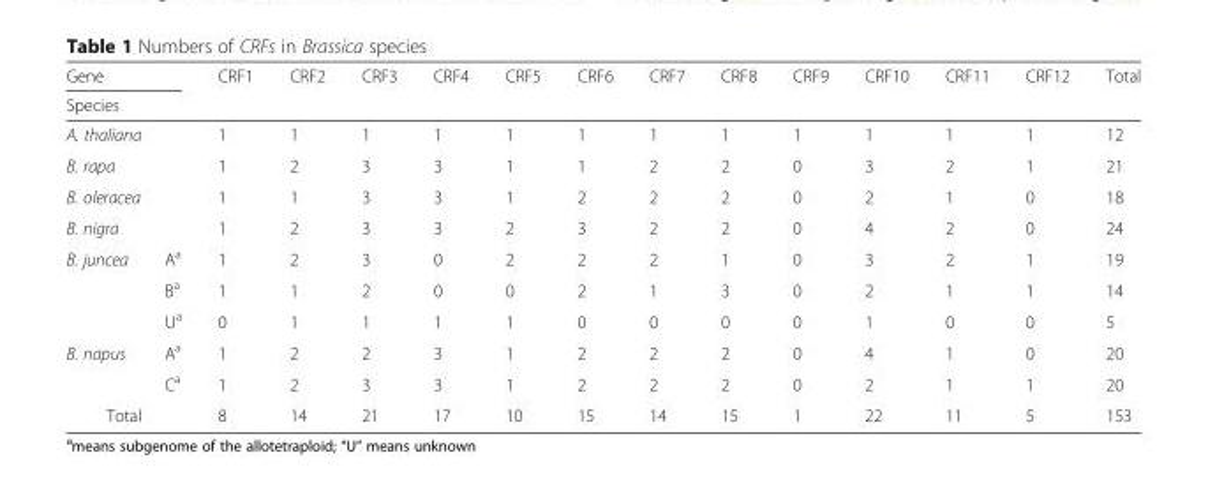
<table><thead><tr><td rowspan="2" colspan="2">Gene Species</td><td rowspan="2">CRF1</td><td rowspan="2">CRF2</td><td rowspan="2">CRF3</td><td rowspan="2">CRF4</td><td rowspan="2">CRF5</td><td rowspan="2">CRF6</td><td rowspan="2">CRF7</td><td rowspan="2">CRF8</td><td rowspan="2">CRF9</td><td rowspan="2">CRF10</td><td rowspan="2">CRF11</td><td rowspan="2">CRF12</td><td rowspan="2">Total</td></tr><tr></tr></thead><tbody><tr><td colspan="2">A. thaliana</td><td>1</td><td>1</td><td>1</td><td>1</td><td>1</td><td>1</td><td>1</td><td>1</td><td>1</td><td>1</td><td>1</td><td>1</td><td>12</td></tr><tr><td colspan="2">B. rapa</td><td>1</td><td>2</td><td>3</td><td>3</td><td>1</td><td>1</td><td>2</td><td>2</td><td>0</td><td>3</td><td>2</td><td>1</td><td>21</td></tr><tr><td colspan="2">B. oleracea</td><td>1</td><td>1</td><td>3</td><td>3</td><td>1</td><td>2</td><td>2</td><td>2</td><td>0</td><td>2</td><td>1</td><td>0</td><td>18</td></tr><tr><td colspan="2">B. nigra</td><td>1</td><td>2</td><td>3</td><td>3</td><td>2</td><td>3</td><td>2</td><td>2</td><td>0</td><td>4</td><td>2</td><td>0</td><td>24</td></tr><tr><td rowspan="3">B. juncea</td><td>A<sup>a</sup></td><td>1</td><td>2</td><td>3</td><td>0</td><td>2</td><td>2</td><td>2</td><td>1</td><td>0</td><td>3</td><td>2</td><td>1</td><td>19</td></tr><tr><td>B<sup>a</sup></td><td>1</td><td>1</td><td>2</td><td>0</td><td>0</td><td>2</td><td>1</td><td>3</td><td>0</td><td>2</td><td>1</td><td>1</td><td>14</td></tr><tr><td>U<sup>a</sup></td><td>0</td><td>1</td><td>1</td><td>1</td><td>1</td><td>0</td><td>0</td><td>0</td><td>0</td><td>1</td><td>0</td><td>0</td><td>5</td></tr><tr><td rowspan="2">B. napus</td><td>A<sup>a</sup></td><td>1</td><td>2</td><td>2</td><td>3</td><td>1</td><td>2</td><td>2</td><td>2</td><td>0</td><td>4</td><td>1</td><td>0</td><td>20</td></tr><tr><td>C<sup>a</sup></td><td>1</td><td>2</td><td>3</td><td>3</td><td>1</td><td>2</td><td>2</td><td>2</td><td>0</td><td>2</td><td>1</td><td>1</td><td>20</td></tr><tr><td colspan="2">Total</td><td>8</td><td>14</td><td>21</td><td>17</td><td>10</td><td>15</td><td>14</td><td>15</td><td>1</td><td>22</td><td>11</td><td>5</td><td>153</td></tr></tbody></table>